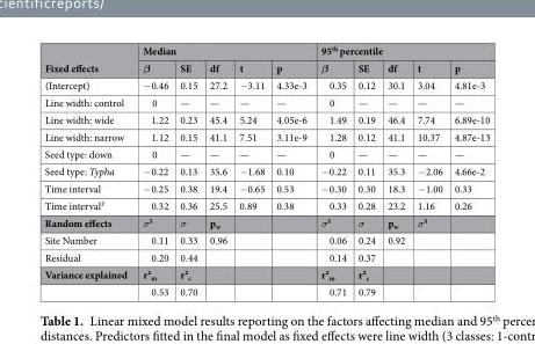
<table><thead><tr><td rowspan="2">Fixed effects</td><td colspan="5">Median</td><td colspan="5">95<sup>th</sup> percentile</td></tr><tr><td>β</td><td>SE</td><td>df</td><td>t</td><td>p</td><td>β</td><td>SE</td><td>df</td><td>t</td><td>p</td></tr></thead><tbody><tr><td>(Intercept)</td><td>−0.46</td><td>0.15</td><td>27.2</td><td>−3.11</td><td>4.33e-3</td><td>0.35</td><td>0.12</td><td>30.1</td><td>3.04</td><td>4.81e-3</td></tr><tr><td>Line width: control</td><td>0</td><td>—</td><td>—</td><td>—</td><td>—</td><td>0</td><td>—</td><td>—</td><td>—</td><td>—</td></tr><tr><td>Line width: wide</td><td>1.22</td><td>0.23</td><td>45.4</td><td>5.24</td><td>4.05e-6</td><td>1.49</td><td>0.19</td><td>46.4</td><td>7.74</td><td>6.89e-10</td></tr><tr><td>Line width: narrow</td><td>1.12</td><td>0.15</td><td>41.1</td><td>7.51</td><td>3.11e-9</td><td>1.28</td><td>0.12</td><td>41.1</td><td>10.37</td><td>4.87e-13</td></tr><tr><td>Seed type: down</td><td>0</td><td>—</td><td>—</td><td>—</td><td>—</td><td>0</td><td>—</td><td>—</td><td>—</td><td>—</td></tr><tr><td>Seed type: Typha</td><td>−0.22</td><td>0.13</td><td>35.6</td><td>−1.68</td><td>0.10</td><td>−0.22</td><td>0.11</td><td>35.3</td><td>−2.06</td><td>4.66e-2</td></tr><tr><td>Time interval</td><td>−0.25</td><td>0.38</td><td>19.4</td><td>−0.65</td><td>0.53</td><td>−0.30</td><td>0.30</td><td>18.3</td><td>−1.00</td><td>0.33</td></tr><tr><td>Time interval²</td><td>0.32</td><td>0.36</td><td>25.5</td><td>0.89</td><td>0.38</td><td>0.33</td><td>0.28</td><td>23.2</td><td>1.16</td><td>0.26</td></tr><tr><td>Random effects</td><td>σ²</td><td>σ</td><td>p<sub>w</sub></td><td></td><td></td><td>σ²</td><td>σ</td><td>p<sub>w</sub></td><td>σ²</td><td></td></tr><tr><td>Site Number</td><td>0.11</td><td>0.33</td><td>0.96</td><td></td><td></td><td>0.06</td><td>0.24</td><td>0.92</td><td></td><td></td></tr><tr><td>Residual</td><td>0.20</td><td>0.44</td><td></td><td></td><td></td><td>0.14</td><td>0.37</td><td></td><td></td><td></td></tr><tr><td rowspan="2">Variance explained</td><td>r²<sub>m</sub></td><td>r²<sub>c</sub></td><td></td><td></td><td></td><td>r²<sub>m</sub></td><td>r²<sub>c</sub></td><td></td><td></td><td></td></tr><tr><td>0.53</td><td>0.70</td><td></td><td></td><td></td><td>0.71</td><td>0.79</td><td></td><td></td><td></td></tr></tbody></table>